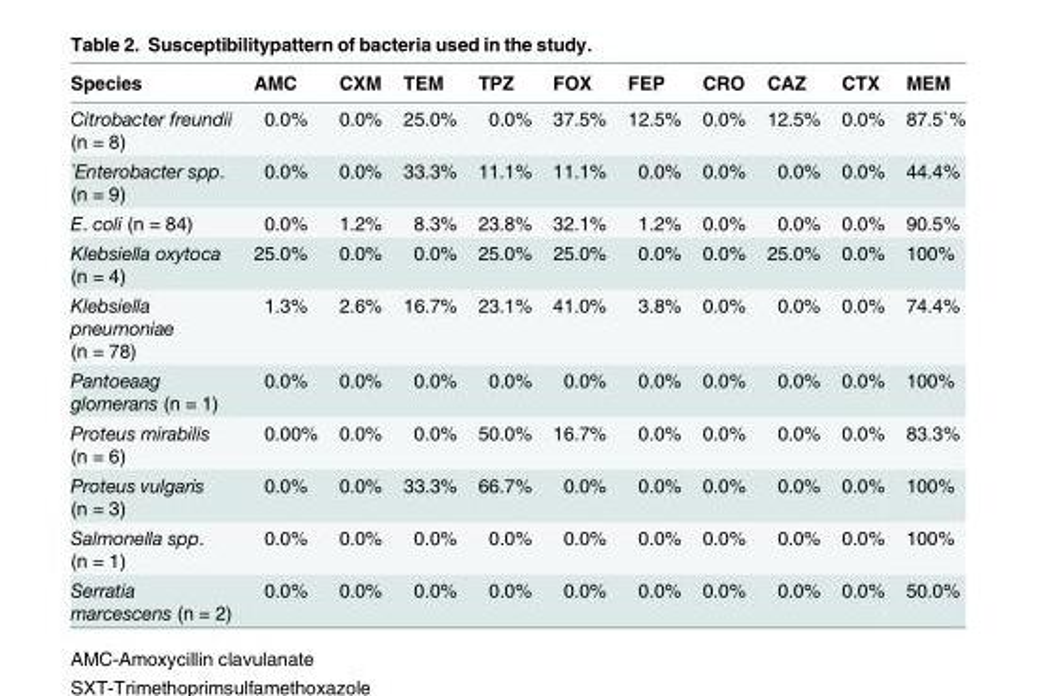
<table><thead><tr><td>Species</td><td>AMC</td><td>CXM</td><td>TEM</td><td>TPZ</td><td>FOX</td><td>FEP</td><td>CRO</td><td>CAZ</td><td>CTX</td><td>MEM</td></tr></thead><tbody><tr><td>Citrobacter freundii (n = 8)</td><td>0.0%</td><td>0.0%</td><td>25.0%</td><td>0.0%</td><td>37.5%</td><td>12.5%</td><td>0.0%</td><td>12.5%</td><td>0.0%</td><td>87.5`%</td></tr><tr><td>`Enterobacter spp. (n = 9)</td><td>0.0%</td><td>0.0%</td><td>33.3%</td><td>11.1%</td><td>11.1%</td><td>0.0%</td><td>0.0%</td><td>0.0%</td><td>0.0%</td><td>44.4%</td></tr><tr><td>E. coli (n = 84)</td><td>0.0%</td><td>1.2%</td><td>8.3%</td><td>23.8%</td><td>32.1%</td><td>1.2%</td><td>0.0%</td><td>0.0%</td><td>0.0%</td><td>90.5%</td></tr><tr><td>Klebsiella oxytoca (n = 4)</td><td>25.0%</td><td>0.0%</td><td>0.0%</td><td>25.0%</td><td>25.0%</td><td>0.0%</td><td>0.0%</td><td>25.0%</td><td>0.0%</td><td>100%</td></tr><tr><td>Klebsiella pneumoniae (n = 78)</td><td>1.3%</td><td>2.6%</td><td>16.7%</td><td>23.1%</td><td>41.0%</td><td>3.8%</td><td>0.0%</td><td>0.0%</td><td>0.0%</td><td>74.4%</td></tr><tr><td>Pantoeaag glomerans (n = 1)</td><td>0.0%</td><td>0.0%</td><td>0.0%</td><td>0.0%</td><td>0.0%</td><td>0.0%</td><td>0.0%</td><td>0.0%</td><td>0.0%</td><td>100%</td></tr><tr><td>Proteus mirabilis (n = 6)</td><td>0.00%</td><td>0.0%</td><td>0.0%</td><td>50.0%</td><td>16.7%</td><td>0.0%</td><td>0.0%</td><td>0.0%</td><td>0.0%</td><td>83.3%</td></tr><tr><td>Proteus vulgaris (n = 3)</td><td>0.0%</td><td>0.0%</td><td>33.3%</td><td>66.7%</td><td>0.0%</td><td>0.0%</td><td>0.0%</td><td>0.0%</td><td>0.0%</td><td>100%</td></tr><tr><td>Salmonella spp. (n = 1)</td><td>0.0%</td><td>0.0%</td><td>0.0%</td><td>0.0%</td><td>0.0%</td><td>0.0%</td><td>0.0%</td><td>0.0%</td><td>0.0%</td><td>100%</td></tr><tr><td>Serratia marcescens (n = 2)</td><td>0.0%</td><td>0.0%</td><td>0.0%</td><td>0.0%</td><td>0.0%</td><td>0.0%</td><td>0.0%</td><td>0.0%</td><td>0.0%</td><td>50.0%</td></tr></tbody></table>